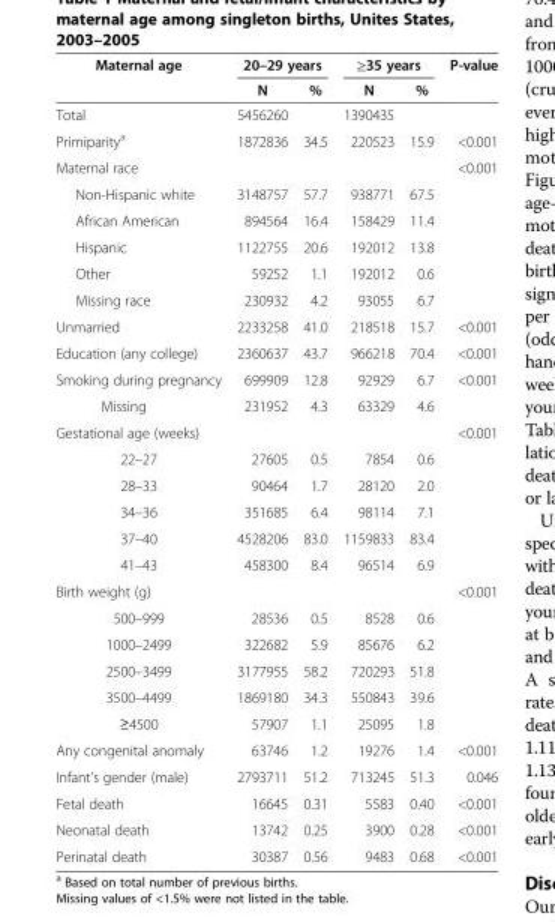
<table><thead><tr><td rowspan="2">Maternal age</td><td colspan="2">20–29 years</td><td colspan="2">≥35 years</td><td rowspan="2">P-value</td></tr><tr><td>N</td><td>%</td><td>N</td><td>%</td></tr></thead><tbody><tr><td>Total</td><td>5456260</td><td></td><td>1390435</td><td></td><td></td></tr><tr><td>Primiparity<sup>a</sup></td><td>1872836</td><td>34.5</td><td>220523</td><td>15.9</td><td>&lt;0.001</td></tr><tr><td>Maternal race</td><td></td><td></td><td></td><td></td><td>&lt;0.001</td></tr><tr><td>Non-Hispanic white</td><td>3148757</td><td>57.7</td><td>938771</td><td>67.5</td><td></td></tr><tr><td>African American</td><td>894564</td><td>16.4</td><td>158429</td><td>11.4</td><td></td></tr><tr><td>Hispanic</td><td>1122755</td><td>20.6</td><td>192012</td><td>13.8</td><td></td></tr><tr><td>Other</td><td>59252</td><td>1.1</td><td>192012</td><td>0.6</td><td></td></tr><tr><td>Missing race</td><td>230932</td><td>4.2</td><td>93055</td><td>6.7</td><td></td></tr><tr><td>Unmarried</td><td>2233258</td><td>41.0</td><td>218518</td><td>15.7</td><td>&lt;0.001</td></tr><tr><td>Education (any college)</td><td>2360637</td><td>43.7</td><td>966218</td><td>70.4</td><td>&lt;0.001</td></tr><tr><td>Smoking during pregnancy</td><td>699909</td><td>12.8</td><td>92929</td><td>6.7</td><td>&lt;0.001</td></tr><tr><td>Missing</td><td>231952</td><td>4.3</td><td>63329</td><td>4.6</td><td></td></tr><tr><td>Gestational age (weeks)</td><td></td><td></td><td></td><td></td><td>&lt;0.001</td></tr><tr><td>22–27</td><td>27605</td><td>0.5</td><td>7854</td><td>0.6</td><td></td></tr><tr><td>28–33</td><td>90464</td><td>1.7</td><td>28120</td><td>2.0</td><td></td></tr><tr><td>34–36</td><td>351685</td><td>6.4</td><td>98114</td><td>7.1</td><td></td></tr><tr><td>37–40</td><td>4528206</td><td>83.0</td><td>1159833</td><td>83.4</td><td></td></tr><tr><td>41–43</td><td>458300</td><td>8.4</td><td>96514</td><td>6.9</td><td></td></tr><tr><td>Birth weight (g)</td><td></td><td></td><td></td><td></td><td>&lt;0.001</td></tr><tr><td>500–999</td><td>28536</td><td>0.5</td><td>8528</td><td>0.6</td><td></td></tr><tr><td>1000–2499</td><td>322682</td><td>5.9</td><td>85676</td><td>6.2</td><td></td></tr><tr><td>2500–3499</td><td>3177955</td><td>58.2</td><td>720293</td><td>51.8</td><td></td></tr><tr><td>3500–4499</td><td>1869180</td><td>34.3</td><td>550843</td><td>39.6</td><td></td></tr><tr><td>≥4500</td><td>57907</td><td>1.1</td><td>25095</td><td>1.8</td><td></td></tr><tr><td>Any congenital anomaly</td><td>63746</td><td>1.2</td><td>19276</td><td>1.4</td><td>&lt;0.001</td></tr><tr><td>Infant&#x27;s gender (male)</td><td>2793711</td><td>51.2</td><td>713245</td><td>51.3</td><td>0.046</td></tr><tr><td>Fetal death</td><td>16645</td><td>0.31</td><td>5583</td><td>0.40</td><td>&lt;0.001</td></tr><tr><td>Neonatal death</td><td>13742</td><td>0.25</td><td>3900</td><td>0.28</td><td>&lt;0.001</td></tr><tr><td>Perinatal death</td><td>30387</td><td>0.56</td><td>9483</td><td>0.68</td><td>&lt;0.001</td></tr></tbody></table>